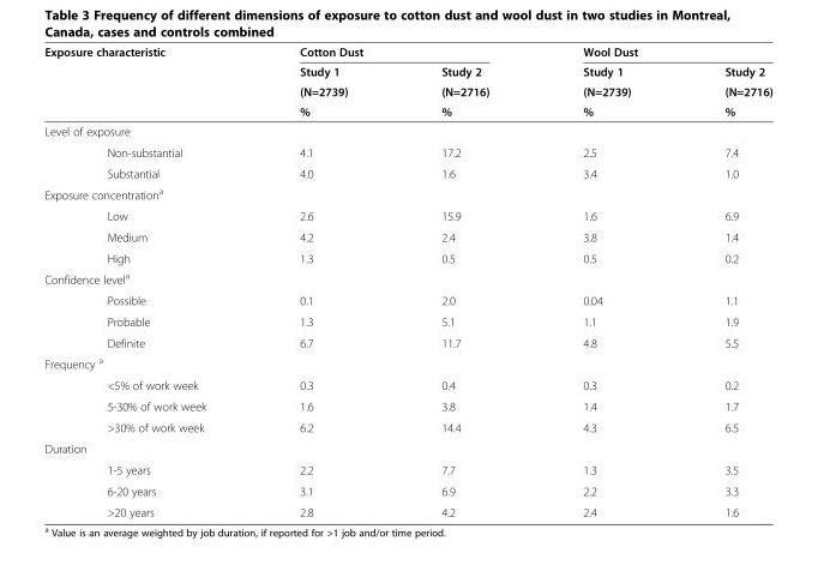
<table><thead><tr><td rowspan="4">Exposure characteristic</td><td colspan="2">Cotton Dust</td><td colspan="2">Wool Dust</td></tr><tr><td rowspan="3">Study 1 (N=2739) %</td><td rowspan="3">Study 2 (N=2716) %</td><td rowspan="3">Study 1 (N=2739) %</td><td rowspan="3">Study 2 (N=2716) %</td></tr><tr></tr><tr></tr></thead><tbody><tr><td colspan="5">Level of exposure</td></tr><tr><td>Non-substantial</td><td>4.1</td><td>17.2</td><td>2.5</td><td>7.4</td></tr><tr><td>Substantial</td><td>4.0</td><td>1.6</td><td>3.4</td><td>1.0</td></tr><tr><td colspan="5">Exposure concentration<sup>a</sup></td></tr><tr><td>Low</td><td>2.6</td><td>15.9</td><td>1.6</td><td>6.9</td></tr><tr><td>Medium</td><td>4.2</td><td>2.4</td><td>3.8</td><td>1.4</td></tr><tr><td>High</td><td>1.3</td><td>0.5</td><td>0.5</td><td>0.2</td></tr><tr><td colspan="5">Confidence level<sup>a</sup></td></tr><tr><td>Possible</td><td>0.1</td><td>2.0</td><td>0.04</td><td>1.1</td></tr><tr><td>Probable</td><td>1.3</td><td>5.1</td><td>1.1</td><td>1.9</td></tr><tr><td>Definite</td><td>6.7</td><td>11.7</td><td>4.8</td><td>5.5</td></tr><tr><td colspan="5">Frequency <sup>a</sup></td></tr><tr><td>&lt;5% of work week</td><td>0.3</td><td>0.4</td><td>0.3</td><td>0.2</td></tr><tr><td>5-30% of work week</td><td>1.6</td><td>3.8</td><td>1.4</td><td>1.7</td></tr><tr><td>&gt;30% of work week</td><td>6.2</td><td>14.4</td><td>4.3</td><td>6.5</td></tr><tr><td colspan="5">Duration</td></tr><tr><td>1-5 years</td><td>2.2</td><td>7.7</td><td>1.3</td><td>3.5</td></tr><tr><td>6-20 years</td><td>3.1</td><td>6.9</td><td>2.2</td><td>3.3</td></tr><tr><td>&gt;20 years</td><td>2.8</td><td>4.2</td><td>2.4</td><td>1.6</td></tr></tbody></table>